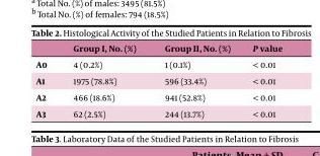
<table><thead><tr><td></td><td>Group I, No. (%)</td><td>Group II, No. (%)</td><td>P value</td></tr></thead><tbody><tr><td>A0</td><td>4 (0.2%)</td><td>1 (0.1%)</td><td>&lt; 0.01</td></tr><tr><td>A1</td><td>1975 (78.8%)</td><td>596 (33.4%)</td><td>&lt; 0.01</td></tr><tr><td>A2</td><td>466 (18.6%)</td><td>941 (52.8%)</td><td>&lt; 0.01</td></tr><tr><td>A3</td><td>62 (2.5%)</td><td>244 (13.7%)</td><td>&lt; 0.01</td></tr></tbody></table>